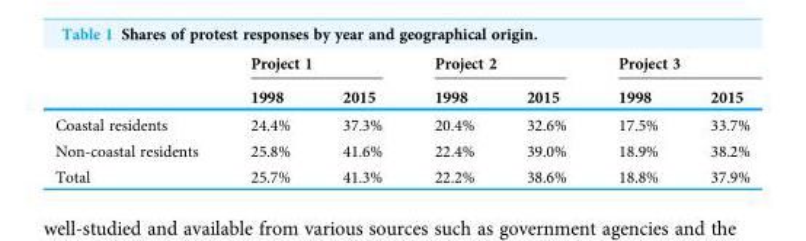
<table><thead><tr><td rowspan="2"></td><td colspan="2">Project 1</td><td colspan="2">Project 2</td><td colspan="2">Project 3</td></tr><tr><td>1998</td><td>2015</td><td>1998</td><td>2015</td><td>1998</td><td>2015</td></tr></thead><tbody><tr><td>Coastal residents</td><td>24.4%</td><td>37.3%</td><td>20.4%</td><td>32.6%</td><td>17.5%</td><td>33.7%</td></tr><tr><td>Non-coastal residents</td><td>25.8%</td><td>41.6%</td><td>22.4%</td><td>39.0%</td><td>18.9%</td><td>38.2%</td></tr><tr><td>Total</td><td>25.7%</td><td>41.3%</td><td>22.2%</td><td>38.6%</td><td>18.8%</td><td>37.9%</td></tr></tbody></table>